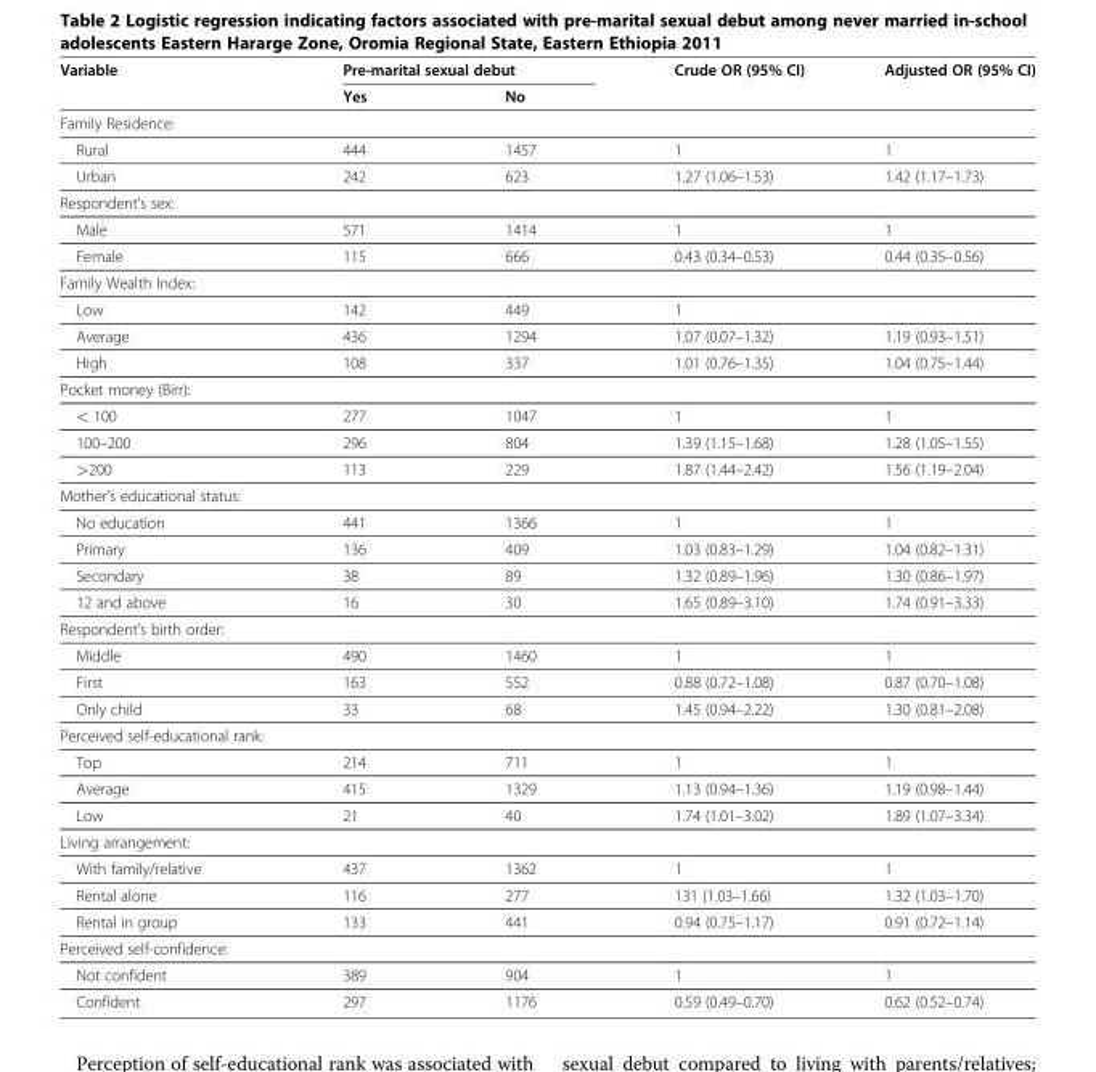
<table><thead><tr><td rowspan="2">Variable</td><td colspan="2">Pre-marital sexual debut</td><td rowspan="2">Crude OR (95% CI)</td><td rowspan="2">Adjusted OR (95% CI)</td></tr><tr><td>Yes</td><td>No</td></tr></thead><tbody><tr><td colspan="5">Family Residence:</td></tr><tr><td>Rural</td><td>444</td><td>1457</td><td>1</td><td>1</td></tr><tr><td>Urban</td><td>242</td><td>623</td><td>1.27 (1.06–1.53)</td><td>1.42 (1.17–1.73)</td></tr><tr><td colspan="5">Respondent’s sex:</td></tr><tr><td>Male</td><td>571</td><td>1414</td><td>1</td><td>1</td></tr><tr><td>Female</td><td>115</td><td>666</td><td>0.43 (0.34–0.53)</td><td>0.44 (0.35–0.56)</td></tr><tr><td colspan="5">Family Wealth Index:</td></tr><tr><td>Low</td><td>142</td><td>449</td><td>1</td><td></td></tr><tr><td>Average</td><td>436</td><td>1294</td><td>1.07 (0.07–1.32)</td><td>1.19 (0.93–1.51)</td></tr><tr><td>High</td><td>108</td><td>337</td><td>1.01 (0.76–1.35)</td><td>1.04 (0.75–1.44)</td></tr><tr><td colspan="5">Pocket money (Birr):</td></tr><tr><td>&lt; 100</td><td>277</td><td>1047</td><td>1</td><td>1</td></tr><tr><td>100–200</td><td>296</td><td>804</td><td>1.39 (1.15–1.68)</td><td>1.28 (1.05–1.55)</td></tr><tr><td>&gt;200</td><td>113</td><td>229</td><td>1.87 (1.44–2.42)</td><td>1.56 (1.19–2.04)</td></tr><tr><td colspan="5">Mother’s educational status:</td></tr><tr><td>No education</td><td>441</td><td>1366</td><td>1</td><td>1</td></tr><tr><td>Primary</td><td>136</td><td>409</td><td>1.03 (0.83–1.29)</td><td>1.04 (0.82–1.31)</td></tr><tr><td>Secondary</td><td>38</td><td>89</td><td>1.32 (0.89–1.96)</td><td>1.30 (0.86–1.97)</td></tr><tr><td>12 and above</td><td>16</td><td>30</td><td>1.65 (0.89–3.10)</td><td>1.74 (0.91–3.33)</td></tr><tr><td colspan="5">Respondent’s birth order:</td></tr><tr><td>Middle</td><td>490</td><td>1460</td><td>1</td><td>1</td></tr><tr><td>First</td><td>163</td><td>552</td><td>0.88 (0.72–1.08)</td><td>0.87 (0.70–1.08)</td></tr><tr><td>Only child</td><td>33</td><td>68</td><td>1.45 (0.94–2.22)</td><td>1.30 (0.81–2.08)</td></tr><tr><td colspan="5">Perceived self-educational rank:</td></tr><tr><td>Top</td><td>214</td><td>711</td><td>1</td><td>1</td></tr><tr><td>Average</td><td>415</td><td>1329</td><td>1.13 (0.94–1.36)</td><td>1.19 (0.98–1.44)</td></tr><tr><td>Low</td><td>21</td><td>40</td><td>1.74 (1.01–3.02)</td><td>1.89 (1.07–3.34)</td></tr><tr><td colspan="5">Living arrangement:</td></tr><tr><td>With family/relative</td><td>437</td><td>1362</td><td>1</td><td>1</td></tr><tr><td>Rental alone</td><td>116</td><td>277</td><td>131 (1.03–1.66)</td><td>1.32 (1.03–1.70)</td></tr><tr><td>Rental in group</td><td>133</td><td>441</td><td>0.94 (0.75–1.17)</td><td>0.91 (0.72–1.14)</td></tr><tr><td colspan="5">Perceived self-confidence:</td></tr><tr><td>Not confident</td><td>389</td><td>904</td><td>1</td><td>1</td></tr><tr><td>Confident</td><td>297</td><td>1176</td><td>0.59 (0.49–0.70)</td><td>0.62 (0.52–0.74)</td></tr></tbody></table>